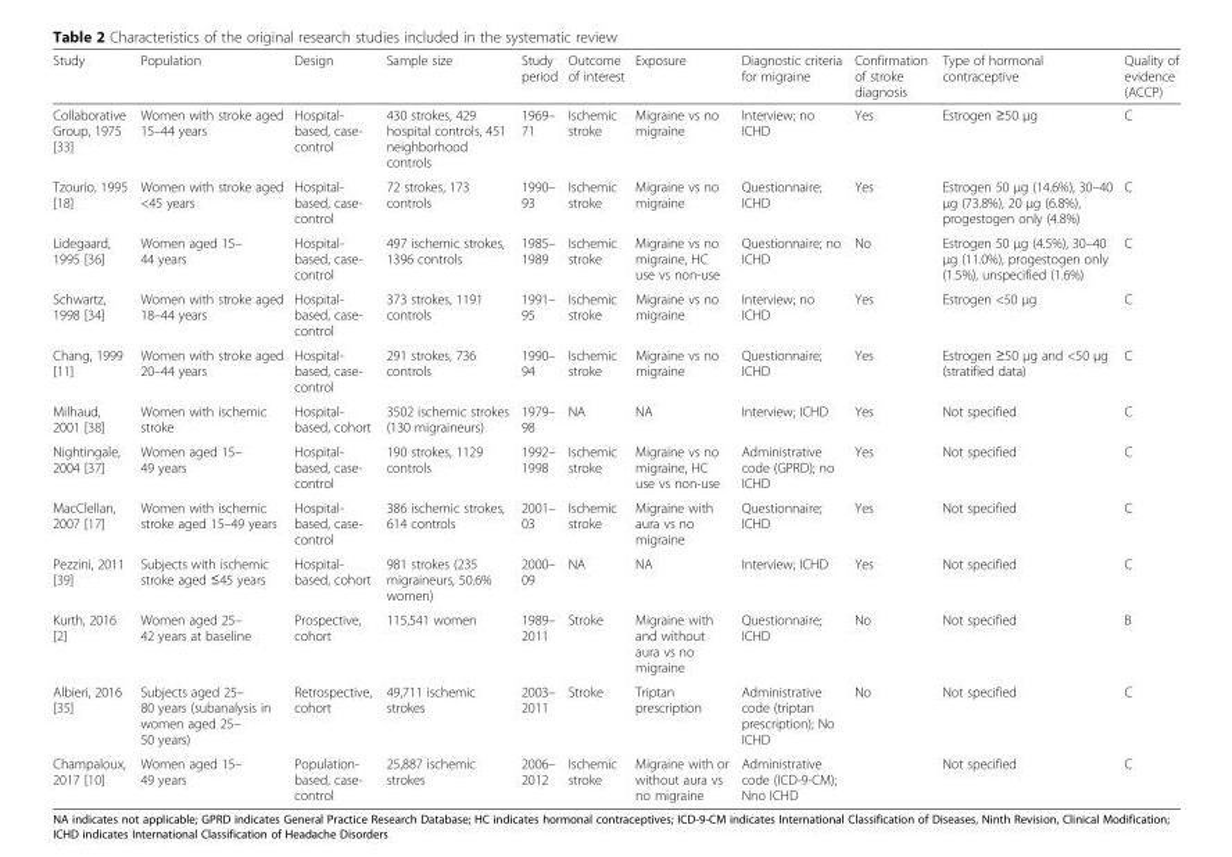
<table><thead><tr><td>Study</td><td>Population</td><td>Design</td><td>Sample size</td><td>Study period</td><td>Outcome of interest</td><td>Exposure</td><td>Diagnostic criteria for migraine</td><td>Confirmation of stroke diagnosis</td><td>Type of hormonal contraceptive</td><td>Quality of evidence (ACCP)</td></tr></thead><tbody><tr><td>Collaborative Group, 1975 [33]</td><td>Women with stroke aged 15–44 years</td><td>Hospital- based, case- control</td><td>430 strokes, 429 hospital controls, 451 neighborhood controls</td><td>1969– 71</td><td>Ischemic stroke</td><td>Migraine vs no migraine</td><td>Interview; no ICHD</td><td>Yes</td><td>Estrogen ≥50 μg</td><td>C</td></tr><tr><td>Tzourio, 1995 [18]</td><td>Women with stroke aged &lt;45 years</td><td>Hospital- based, case- control</td><td>72 strokes, 173 controls</td><td>1990– 93</td><td>Ischemic stroke</td><td>Migraine vs no migraine</td><td>Questionnaire; ICHD</td><td>Yes</td><td>Estrogen 50 μg (14.6%), 30–40 μg (73.8%), 20 μg (6.8%), progestogen only (4.8%)</td><td>C</td></tr><tr><td>Lidegaard, 1995 [36]</td><td>Women aged 15– 44 years</td><td>Hospital- based, case- control</td><td>497 ischemic strokes, 1396 controls</td><td>1985– 1989</td><td>Ischemic stroke</td><td>Migraine vs no migraine, HC use vs non-use</td><td>Questionnaire; no ICHD</td><td>No</td><td>Estrogen 50 μg (4.5%), 30–40 μg (11.0%), progestogen only (1.5%), unspecified (1.6%)</td><td>C</td></tr><tr><td>Schwartz, 1998 [34]</td><td>Women with stroke aged 18–44 years</td><td>Hospital- based, case- control</td><td>373 strokes, 1191 controls</td><td>1991– 95</td><td>Ischemic stroke</td><td>Migraine vs no migraine</td><td>Interview; no ICHD</td><td>Yes</td><td>Estrogen &lt;50 μg</td><td>C</td></tr><tr><td>Chang, 1999 [11]</td><td>Women with stroke aged 20–44 years</td><td>Hospital- based, case- control</td><td>291 strokes, 736 controls</td><td>1990– 94</td><td>Ischemic stroke</td><td>Migraine vs no migraine</td><td>Questionnaire; ICHD</td><td>Yes</td><td>Estrogen ≥50 μg and &lt;50 μg (stratified data)</td><td>C</td></tr><tr><td>Milhaud, 2001 [38]</td><td>Women with ischemic stroke</td><td>Hospital- based, cohort</td><td>3502 ischemic strokes (130 migraineurs)</td><td>1979– 98</td><td>NA</td><td>NA</td><td>Interview; ICHD</td><td>Yes</td><td>Not specified</td><td>C</td></tr><tr><td>Nightingale, 2004 [37]</td><td>Women aged 15– 49 years</td><td>Hospital- based, case- control</td><td>190 strokes, 1129 controls</td><td>1992– 1998</td><td>Ischemic stroke</td><td>Migraine vs no migraine, HC use vs non-use</td><td>Administrative code (GPRD); no ICHD</td><td>Yes</td><td>Not specified</td><td>C</td></tr><tr><td>MacClellan, 2007 [17]</td><td>Women with ischemic stroke aged 15–49 years</td><td>Hospital- based, case- control</td><td>386 ischemic strokes, 614 controls</td><td>2001– 03</td><td>Ischemic stroke</td><td>Migraine with aura vs no migraine</td><td>Questionnaire; ICHD</td><td>Yes</td><td>Not specified</td><td>C</td></tr><tr><td>Pezzini, 2011 [39]</td><td>Subjects with ischemic stroke aged ≤45 years</td><td>Hospital- based, cohort</td><td>981 strokes (235 migraineurs, 50.6% women)</td><td>2000– 09</td><td>NA</td><td>NA</td><td>Interview; ICHD</td><td>Yes</td><td>Not specified</td><td>C</td></tr><tr><td>Kurth, 2016 [2]</td><td>Women aged 25– 42 years at baseline</td><td>Prospective, cohort</td><td>115,541 women</td><td>1989– 2011</td><td>Stroke</td><td>Migraine with and without aura vs no migraine</td><td>Questionnaire; ICHD</td><td>No</td><td>Not specified</td><td>B</td></tr><tr><td>Albieri, 2016 [35]</td><td>Subjects aged 25– 80 years (subanalysis in women aged 25– 50 years)</td><td>Retrospective, cohort</td><td>49,711 ischemic strokes</td><td>2003– 2011</td><td>Stroke</td><td>Triptan prescription</td><td>Administrative code (triptan prescription); No ICHD</td><td>No</td><td>Not specified</td><td>C</td></tr><tr><td>Champaloux, 2017 [10]</td><td>Women aged 15– 49 years</td><td>Population- based, case- control</td><td>25,887 ischemic strokes</td><td>2006– 2012</td><td>Ischemic stroke</td><td>Migraine with or without aura vs no migraine</td><td>Administrative code (ICD-9-CM); Nno ICHD</td><td></td><td>Not specified</td><td>C</td></tr></tbody></table>